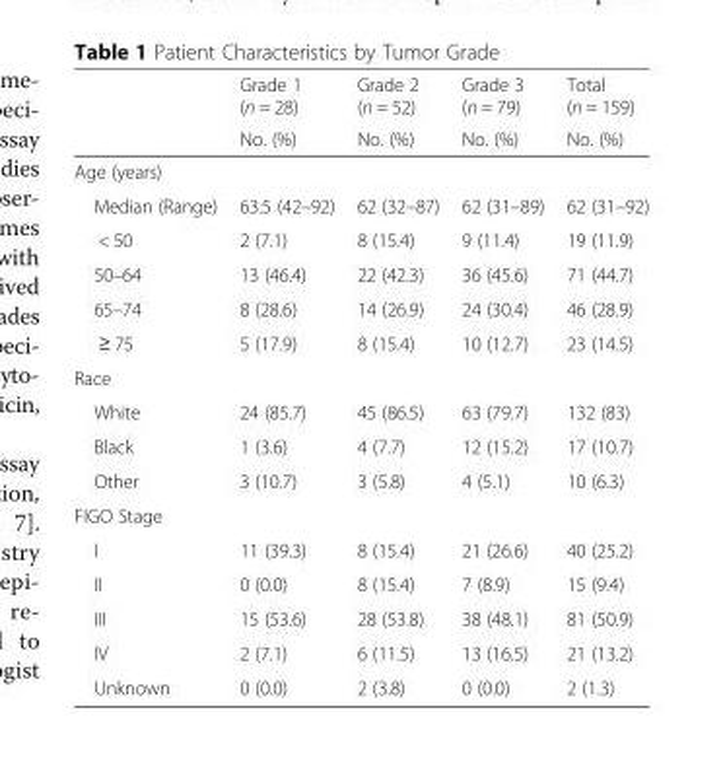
<table><thead><tr><td rowspan="2"></td><td rowspan="2">Grade 1 (n = 28) No. (%)</td><td rowspan="2">Grade 2 (n = 52) No. (%)</td><td rowspan="2">Grade 3 (n = 79) No. (%)</td><td rowspan="2">Total (n = 159) No. (%)</td></tr><tr></tr></thead><tbody><tr><td colspan="5">Age (years)</td></tr><tr><td>Median (Range)</td><td>63.5 (42–92)</td><td>62 (32–87)</td><td>62 (31–89)</td><td>62 (31–92)</td></tr><tr><td>&lt; 50</td><td>2 (7.1)</td><td>8 (15.4)</td><td>9 (11.4)</td><td>19 (11.9)</td></tr><tr><td>50–64</td><td>13 (46.4)</td><td>22 (42.3)</td><td>36 (45.6)</td><td>71 (44.7)</td></tr><tr><td>65–74</td><td>8 (28.6)</td><td>14 (26.9)</td><td>24 (30.4)</td><td>46 (28.9)</td></tr><tr><td>≥ 75</td><td>5 (17.9)</td><td>8 (15.4)</td><td>10 (12.7)</td><td>23 (14.5)</td></tr><tr><td colspan="5">Race</td></tr><tr><td>White</td><td>24 (85.7)</td><td>45 (86.5)</td><td>63 (79.7)</td><td>132 (83)</td></tr><tr><td>Black</td><td>1 (3.6)</td><td>4 (7.7)</td><td>12 (15.2)</td><td>17 (10.7)</td></tr><tr><td>Other</td><td>3 (10.7)</td><td>3 (5.8)</td><td>4 (5.1)</td><td>10 (6.3)</td></tr><tr><td colspan="5">FIGO Stage</td></tr><tr><td>I</td><td>11 (39.3)</td><td>8 (15.4)</td><td>21 (26.6)</td><td>40 (25.2)</td></tr><tr><td>II</td><td>0 (0.0)</td><td>8 (15.4)</td><td>7 (8.9)</td><td>15 (9.4)</td></tr><tr><td>III</td><td>15 (53.6)</td><td>28 (53.8)</td><td>38 (48.1)</td><td>81 (50.9)</td></tr><tr><td>IV</td><td>2 (7.1)</td><td>6 (11.5)</td><td>13 (16.5)</td><td>21 (13.2)</td></tr><tr><td>Unknown</td><td>0 (0.0)</td><td>2 (3.8)</td><td>0 (0.0)</td><td>2 (1.3)</td></tr></tbody></table>